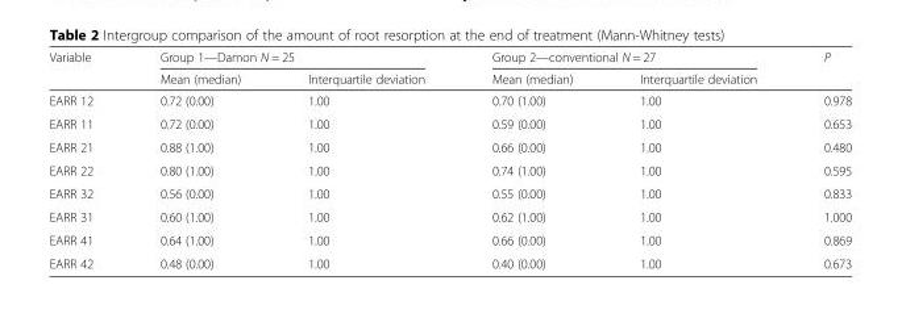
<table><thead><tr><td rowspan="2">Variable</td><td colspan="2">Group 1—Damon N = 25</td><td colspan="2">Group 2—conventional N = 27</td><td rowspan="2">P</td></tr><tr><td>Mean (median)</td><td>Interquartile deviation</td><td>Mean (median)</td><td>Interquartile deviation</td></tr></thead><tbody><tr><td>EARR 12</td><td>0.72 (0.00)</td><td>1.00</td><td>0.70 (1.00)</td><td>1.00</td><td>0.978</td></tr><tr><td>EARR 11</td><td>0.72 (0.00)</td><td>1.00</td><td>0.59 (0.00)</td><td>1.00</td><td>0.653</td></tr><tr><td>EARR 21</td><td>0.88 (1.00)</td><td>1.00</td><td>0.66 (0.00)</td><td>1.00</td><td>0.480</td></tr><tr><td>EARR 22</td><td>0.80 (1.00)</td><td>1.00</td><td>0.74 (1.00)</td><td>1.00</td><td>0.595</td></tr><tr><td>EARR 32</td><td>0.56 (0.00)</td><td>1.00</td><td>0.55 (0.00)</td><td>1.00</td><td>0.833</td></tr><tr><td>EARR 31</td><td>0.60 (1.00)</td><td>1.00</td><td>0.62 (1.00)</td><td>1.00</td><td>1.000</td></tr><tr><td>EARR 41</td><td>0.64 (1.00)</td><td>1.00</td><td>0.66 (0.00)</td><td>1.00</td><td>0.869</td></tr><tr><td>EARR 42</td><td>0.48 (0.00)</td><td>1.00</td><td>0.40 (0.00)</td><td>1.00</td><td>0.673</td></tr></tbody></table>